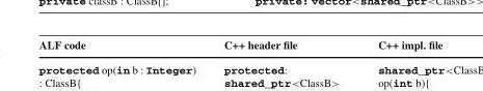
<table><thead><tr><td>ALF code</td><td>C++ header file</td><td>C++ impl. file</td></tr></thead><tbody></tbody></table>